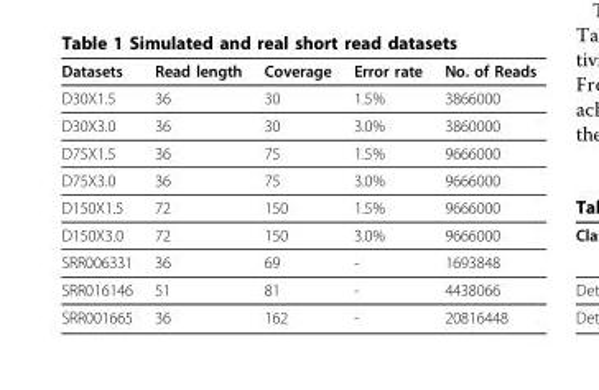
<table><thead><tr><td>Datasets</td><td>Read length</td><td>Coverage</td><td>Error rate</td><td>No. of Reads</td></tr></thead><tbody><tr><td>D30X1.5</td><td>36</td><td>30</td><td>1.5%</td><td>3866000</td></tr><tr><td>D30X3.0</td><td>36</td><td>30</td><td>3.0%</td><td>3860000</td></tr><tr><td>D75X1.5</td><td>36</td><td>75</td><td>1.5%</td><td>9666000</td></tr><tr><td>D75X3.0</td><td>36</td><td>75</td><td>3.0%</td><td>9666000</td></tr><tr><td>D150X1.5</td><td>72</td><td>150</td><td>1.5%</td><td>9666000</td></tr><tr><td>D150X3.0</td><td>72</td><td>150</td><td>3.0%</td><td>9666000</td></tr><tr><td>SRR006331</td><td>36</td><td>69</td><td>-</td><td>1693848</td></tr><tr><td>SRR016146</td><td>51</td><td>81</td><td>-</td><td>4438066</td></tr><tr><td>SRR001665</td><td>36</td><td>162</td><td>-</td><td>20816448</td></tr></tbody></table>